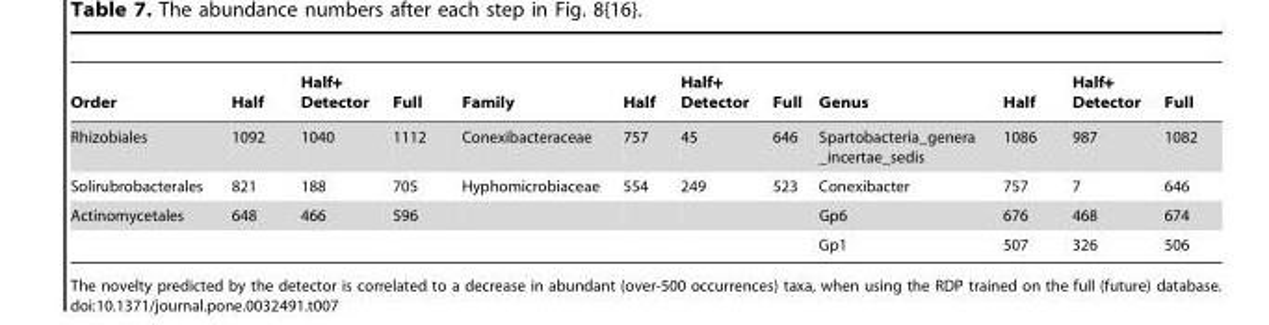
<table><thead><tr><td>Order</td><td>Half</td><td>Half+ Detector</td><td>Full</td><td>Family</td><td>Half</td><td>Half+ Detector</td><td>Full</td><td>Genus</td><td>Half</td><td>Half+ Detector</td><td>Full</td></tr></thead><tbody><tr><td>Rhizobiales</td><td>1092</td><td>1040</td><td>1112</td><td>Conexibacteraceae</td><td>757</td><td>45</td><td>646</td><td>Spartobacteria_genera _incertae_sedis</td><td>1086</td><td>987</td><td>1082</td></tr><tr><td>Solirubrobacterales</td><td>821</td><td>188</td><td>705</td><td>Hyphomicrobiaceae</td><td>554</td><td>249</td><td>523</td><td>Conexibacter</td><td>757</td><td>7</td><td>646</td></tr><tr><td rowspan="2">Actinomycetales</td><td>648</td><td>466</td><td>596</td><td></td><td></td><td></td><td></td><td>Gp6</td><td>676</td><td>468</td><td>674</td></tr><tr><td></td><td></td><td></td><td></td><td></td><td></td><td></td><td>Gp1</td><td>507</td><td>326</td><td>506</td></tr></tbody></table>